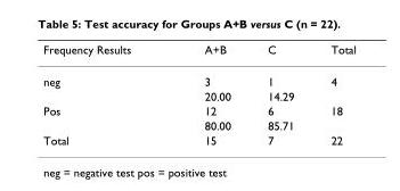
<table><thead><tr><td>Frequency Results</td><td>A+B</td><td>C</td><td>Total</td></tr></thead><tbody><tr><td rowspan="2">neg</td><td>3</td><td>1</td><td>4</td></tr><tr><td>20.00</td><td>14.29</td><td></td></tr><tr><td rowspan="2">Pos</td><td>12</td><td>6</td><td>18</td></tr><tr><td>80.00</td><td>85.71</td><td></td></tr><tr><td>Total</td><td>15</td><td>7</td><td>22</td></tr></tbody></table>